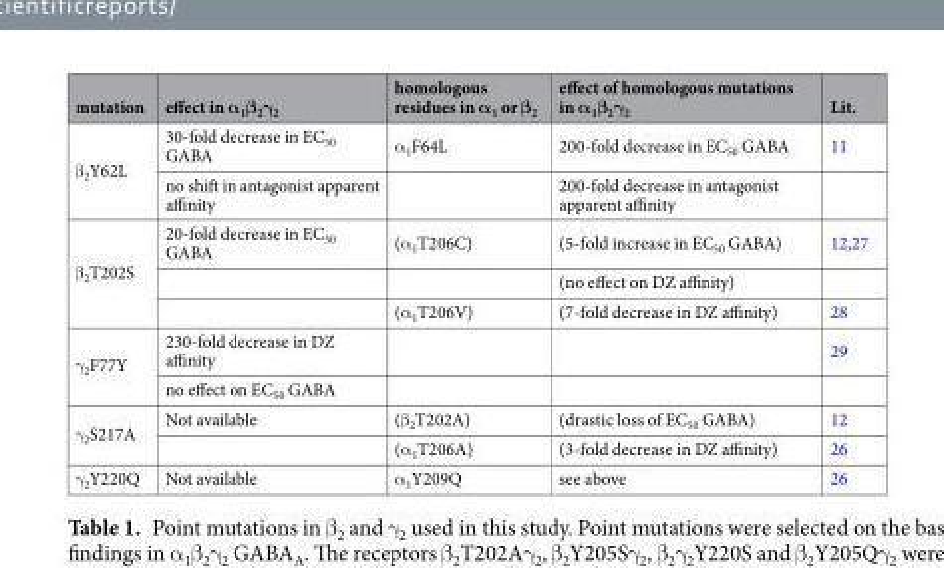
<table><thead><tr><td>mutation</td><td>effect in α<sub>1</sub>β<sub>2</sub>γ<sub>2</sub></td><td>homologous residues in α<sub>1</sub> or β<sub>2</sub></td><td>effect of homologous mutations in α<sub>1</sub>β<sub>2</sub>γ<sub>2</sub></td><td>Lit.</td></tr></thead><tbody><tr><td rowspan="2">β<sub>2</sub>Y62L</td><td>30-fold decrease in EC<sub>50</sub> GABA</td><td>α<sub>1</sub>F64L</td><td>200-fold decrease in EC<sub>50</sub> GABA</td><td>11</td></tr><tr><td>no shift in antagonist apparent affinity</td><td></td><td>200-fold decrease in antagonist apparent affinity</td><td></td></tr><tr><td rowspan="3">β<sub>2</sub>T202S</td><td>20-fold decrease in EC<sub>50</sub> GABA</td><td>(α<sub>1</sub>T206C)</td><td>(5-fold increase in EC<sub>50</sub> GABA)</td><td>12,27</td></tr><tr><td></td><td></td><td>(no effect on DZ affinity)</td><td></td></tr><tr><td></td><td>(α<sub>1</sub>T206V)</td><td>(7-fold decrease in DZ affinity)</td><td>28</td></tr><tr><td rowspan="2">γ<sub>2</sub>F77Y</td><td>230-fold decrease in DZ affinity</td><td></td><td></td><td>29</td></tr><tr><td>no effect on EC<sub>50</sub> GABA</td><td></td><td></td><td></td></tr><tr><td rowspan="2">γ<sub>2</sub>S217A</td><td>Not available</td><td>(β<sub>2</sub>T202A)</td><td>(drastic loss of EC<sub>50</sub> GABA)</td><td>12</td></tr><tr><td></td><td>(α<sub>1</sub>T206A)</td><td>(3-fold decrease in DZ affinity)</td><td>26</td></tr><tr><td>γ<sub>2</sub>Y220Q</td><td>Not available</td><td>α<sub>1</sub>Y209Q</td><td>see above</td><td>26</td></tr></tbody></table>